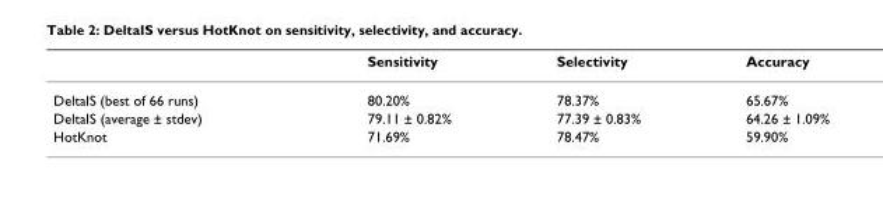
<table><thead><tr><td></td><td>Sensitivity</td><td>Selectivity</td><td>Accuracy</td></tr></thead><tbody><tr><td>DeltaIS (best of 66 runs)</td><td>80.20%</td><td>78.37%</td><td>65.67%</td></tr><tr><td>DeltaIS (average ± stdev)</td><td>79.11 ± 0.82%</td><td>77.39 ± 0.83%</td><td>64.26 ± 1.09%</td></tr><tr><td>HotKnot</td><td>71.69%</td><td>78.47%</td><td>59.90%</td></tr></tbody></table>